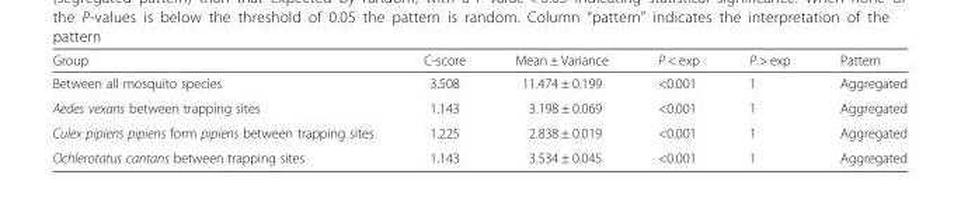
<table><thead><tr><td>Group</td><td>C-score</td><td>Mean ± Variance</td><td>P &lt; exp</td><td>P &gt; exp</td><td>Pattern</td></tr></thead><tbody><tr><td>Between all mosquito species</td><td>3.508</td><td>11.474 ± 0.199</td><td>&lt;0.001</td><td>1</td><td>Aggregated</td></tr><tr><td>Aedes vexans between trapping sites</td><td>1.143</td><td>3.198 ± 0.069</td><td>&lt;0.001</td><td>1</td><td>Aggregated</td></tr><tr><td>Culex pipiens pipiens form pipiens between trapping sites</td><td>1.225</td><td>2.838 ± 0.019</td><td>&lt;0.001</td><td>1</td><td>Aggregated</td></tr><tr><td>Ochlerotatus cantans between trapping sites</td><td>1.143</td><td>3.534 ± 0.045</td><td>&lt;0.001</td><td>1</td><td>Aggregated</td></tr></tbody></table>